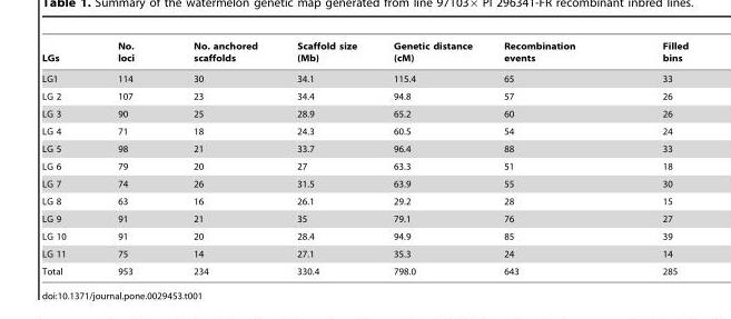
<table><thead><tr><td>LGs</td><td>No. loci</td><td>No. anchored scaffolds</td><td>Scaffold size (Mb)</td><td>Genetic distance (cM)</td><td>Recombination events</td><td>Filled bins</td></tr></thead><tbody><tr><td>LG1</td><td>114</td><td>30</td><td>34.1</td><td>115.4</td><td>65</td><td>33</td></tr><tr><td>LG 2</td><td>107</td><td>23</td><td>34.4</td><td>94.8</td><td>57</td><td>26</td></tr><tr><td>LG 3</td><td>90</td><td>25</td><td>28.9</td><td>65.2</td><td>60</td><td>26</td></tr><tr><td>LG 4</td><td>71</td><td>18</td><td>24.3</td><td>60.5</td><td>54</td><td>24</td></tr><tr><td>LG 5</td><td>98</td><td>21</td><td>33.7</td><td>96.4</td><td>88</td><td>33</td></tr><tr><td>LG 6</td><td>79</td><td>20</td><td>27</td><td>63.3</td><td>51</td><td>18</td></tr><tr><td>LG 7</td><td>74</td><td>26</td><td>31.5</td><td>63.9</td><td>55</td><td>30</td></tr><tr><td>LG 8</td><td>63</td><td>16</td><td>26.1</td><td>29.2</td><td>28</td><td>15</td></tr><tr><td>LG 9</td><td>91</td><td>21</td><td>35</td><td>79.1</td><td>76</td><td>27</td></tr><tr><td>LG 10</td><td>91</td><td>20</td><td>28.4</td><td>94.9</td><td>85</td><td>39</td></tr><tr><td>LG 11</td><td>75</td><td>14</td><td>27.1</td><td>35.3</td><td>24</td><td>14</td></tr><tr><td>Total</td><td>953</td><td>234</td><td>330.4</td><td>798.0</td><td>643</td><td>285</td></tr></tbody></table>